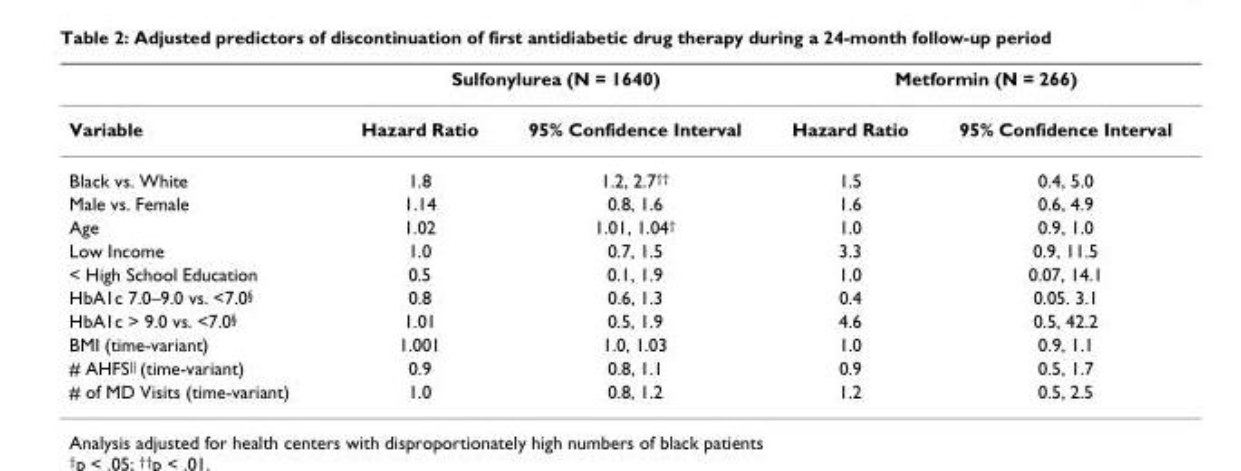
<table><thead><tr><td rowspan="2">Variable</td><td colspan="2">Sulfonylurea (N = 1640)</td><td colspan="2">Metformin (N = 266)</td></tr><tr><td>Hazard Ratio</td><td>95% Confidence Interval</td><td>Hazard Ratio</td><td>95% Confidence Interval</td></tr></thead><tbody><tr><td>Black vs. White</td><td>1.8</td><td>1.2, 2.7<sup>††</sup></td><td>1.5</td><td>0.4, 5.0</td></tr><tr><td>Male vs. Female</td><td>1.14</td><td>0.8, 1.6</td><td>1.6</td><td>0.6, 4.9</td></tr><tr><td>Age</td><td>1.02</td><td>1.01, 1.04<sup>†</sup></td><td>1.0</td><td>0.9, 1.0</td></tr><tr><td>Low Income</td><td>1.0</td><td>0.7, 1.5</td><td>3.3</td><td>0.9, 11.5</td></tr><tr><td>&lt; High School Education</td><td>0.5</td><td>0.1, 1.9</td><td>1.0</td><td>0.07, 14.1</td></tr><tr><td>HbA1c 7.0–9.0 vs. &lt;7.0<sup>§</sup></td><td>0.8</td><td>0.6, 1.3</td><td>0.4</td><td>0.05. 3.1</td></tr><tr><td>HbA1c &gt; 9.0 vs. &lt;7.0<sup>§</sup></td><td>1.01</td><td>0.5, 1.9</td><td>4.6</td><td>0.5, 42.2</td></tr><tr><td>BMI (time-variant)</td><td>1.001</td><td>1.0, 1.03</td><td>1.0</td><td>0.9, 1.1</td></tr><tr><td># AHFS<sup>||</sup> (time-variant)</td><td>0.9</td><td>0.8, 1.1</td><td>0.9</td><td>0.5, 1.7</td></tr><tr><td># of MD Visits (time-variant)</td><td>1.0</td><td>0.8, 1.2</td><td>1.2</td><td>0.5, 2.5</td></tr></tbody></table>